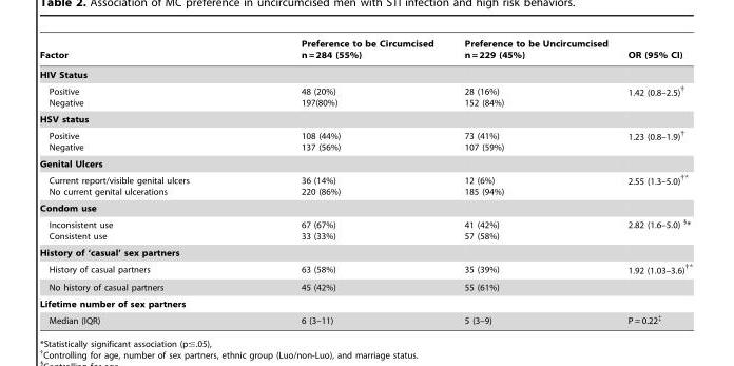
<table><thead><tr><td>Factor</td><td>Preference to be Circumcised n = 284 (55%)</td><td>Preference to be Uncircumcised n = 229 (45%)</td><td>OR (95% CI)</td></tr></thead><tbody><tr><td colspan="4">HIV Status</td></tr><tr><td>Positive Negative</td><td>48 (20%) 197(80%)</td><td>28 (16%) 152 (84%)</td><td>1.42 (0.8–2.5)†</td></tr><tr><td colspan="4">HSV status</td></tr><tr><td>Positive Negative</td><td>108 (44%) 137 (56%)</td><td>73 (41%) 107 (59%)</td><td>1.23 (0.8–1.9)†</td></tr><tr><td colspan="4">Genital Ulcers</td></tr><tr><td>Current report/visible genital ulcers No current genital ulcerations</td><td>36 (14%) 220 (86%)</td><td>12 (6%) 185 (94%)</td><td>2.55 (1.3–5.0)†*</td></tr><tr><td colspan="4">Condom use</td></tr><tr><td>Inconsistent use Consistent use</td><td>67 (67%) 33 (33%)</td><td>41 (42%) 57 (58%)</td><td>2.82 (1.6–5.0) §*</td></tr><tr><td colspan="4">History of ‘casual’ sex partners</td></tr><tr><td>History of casual partners</td><td>63 (58%)</td><td>35 (39%)</td><td>1.92 (1.03–3.6)†*</td></tr><tr><td>No history of casual partners</td><td>45 (42%)</td><td>55 (61%)</td><td></td></tr><tr><td colspan="4">Lifetime number of sex partners</td></tr><tr><td>Median (IQR)</td><td>6 (3–11)</td><td>5 (3–9)</td><td>P = 0.22‡</td></tr></tbody></table>